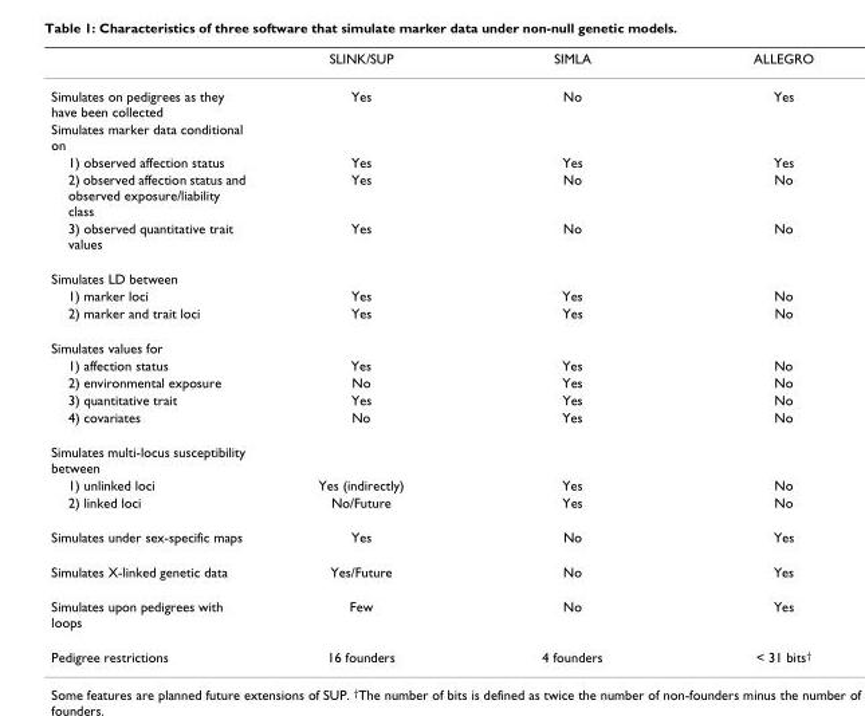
<table><thead><tr><td></td><td>SLINK/SUP</td><td>SIMLA</td><td>ALLEGRO</td></tr></thead><tbody><tr><td>Simulates on pedigrees as they have been collected</td><td>Yes</td><td>No</td><td>Yes</td></tr><tr><td colspan="4">Simulates marker data conditional on</td></tr><tr><td>1) observed affection status</td><td>Yes</td><td>Yes</td><td>Yes</td></tr><tr><td>2) observed affection status and observed exposure/liability class</td><td>Yes</td><td>No</td><td>No</td></tr><tr><td>3) observed quantitative trait values</td><td>Yes</td><td>No</td><td>No</td></tr><tr><td colspan="4">Simulates LD between</td></tr><tr><td>1) marker loci</td><td>Yes</td><td>Yes</td><td>No</td></tr><tr><td>2) marker and trait loci</td><td>Yes</td><td>Yes</td><td>No</td></tr><tr><td colspan="4">Simulates values for</td></tr><tr><td>1) affection status</td><td>Yes</td><td>Yes</td><td>No</td></tr><tr><td>2) environmental exposure</td><td>No</td><td>Yes</td><td>No</td></tr><tr><td>3) quantitative trait</td><td>Yes</td><td>Yes</td><td>No</td></tr><tr><td>4) covariates</td><td>No</td><td>Yes</td><td>No</td></tr><tr><td colspan="4">Simulates multi-locus susceptibility between</td></tr><tr><td>1) unlinked loci</td><td>Yes (indirectly)</td><td>Yes</td><td>No</td></tr><tr><td>2) linked loci</td><td>No/Future</td><td>Yes</td><td>No</td></tr><tr><td>Simulates under sex-specific maps</td><td>Yes</td><td>No</td><td>Yes</td></tr><tr><td>Simulates X-linked genetic data</td><td>Yes/Future</td><td>No</td><td>Yes</td></tr><tr><td>Simulates upon pedigrees with loops</td><td>Few</td><td>No</td><td>Yes</td></tr><tr><td>Pedigree restrictions</td><td>16 founders</td><td>4 founders</td><td>&lt; 31 bits<sup>†</sup></td></tr></tbody></table>